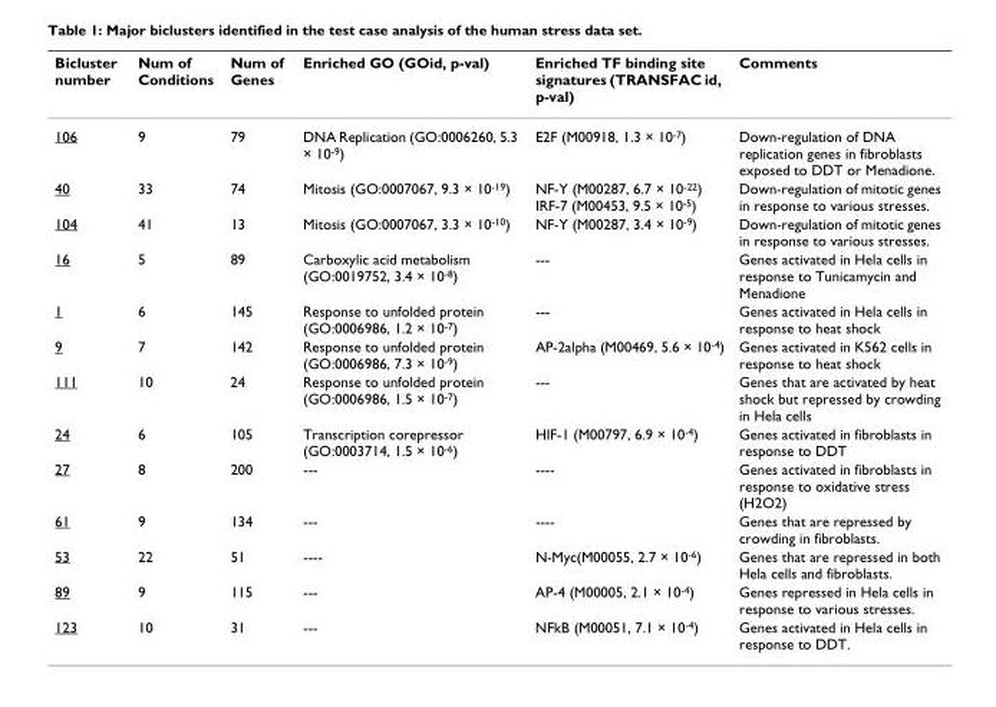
<table><thead><tr><td>Bicluster number</td><td>Num of Conditions</td><td>Num of Genes</td><td>Enriched GO (GOid, p-val)</td><td>Enriched TF binding site signatures (TRANSFAC id, p-val)</td><td>Comments</td></tr></thead><tbody><tr><td>106</td><td>9</td><td>79</td><td>DNA Replication (GO:0006260, 5.3 × 10<sup>-9</sup>)</td><td>E2F (M00918, 1.3 × 10<sup>-7</sup>)</td><td>Down-regulation of DNA replication genes in fibroblasts exposed to DDT or Menadione.</td></tr><tr><td>40</td><td>33</td><td>74</td><td>Mitosis (GO:0007067, 9.3 × 10<sup>-19</sup>)</td><td>NF-Y (M00287, 6.7 × 10<sup>-22</sup>) IRF-7 (M00453, 9.5 × 10<sup>-5</sup>)</td><td>Down-regulation of mitotic genes in response to various stresses.</td></tr><tr><td>104</td><td>41</td><td>13</td><td>Mitosis (GO:0007067, 3.3 × 10<sup>-10</sup>)</td><td>NF-Y (M00287, 3.4 × 10<sup>-9</sup>)</td><td>Down-regulation of mitotic genes in response to various stresses.</td></tr><tr><td>16</td><td>5</td><td>89</td><td>Carboxylic acid metabolism (GO:0019752, 3.4 × 10<sup>-8</sup>)</td><td>---</td><td>Genes activated in Hela cells in response to Tunicamycin and Menadione</td></tr><tr><td>1</td><td>6</td><td>145</td><td>Response to unfolded protein (GO:0006986, 1.2 × 10<sup>-7</sup>)</td><td>---</td><td>Genes activated in Hela cells in response to heat shock</td></tr><tr><td>9</td><td>7</td><td>142</td><td>Response to unfolded protein (GO:0006986, 7.3 × 10<sup>-9</sup>)</td><td>AP-2alpha (M00469, 5.6 × 10<sup>-4</sup>)</td><td>Genes activated in K562 cells in response to heat shock</td></tr><tr><td>111</td><td>10</td><td>24</td><td>Response to unfolded protein (GO:0006986, 1.5 × 10<sup>-7</sup>)</td><td>---</td><td>Genes that are activated by heat shock but repressed by crowding in Hela cells</td></tr><tr><td>24</td><td>6</td><td>105</td><td>Transcription corepressor (GO:0003714, 1.5 × 10<sup>-6</sup>)</td><td>HIF-1 (M00797, 6.9 × 10<sup>-4</sup>)</td><td>Genes activated in fibroblasts in response to DDT</td></tr><tr><td>27</td><td>8</td><td>200</td><td>---</td><td>----</td><td>Genes activated in fibroblasts in response to oxidative stress (H2O2)</td></tr><tr><td>61</td><td>9</td><td>134</td><td>---</td><td>----</td><td>Genes that are repressed by crowding in fibroblasts.</td></tr><tr><td>53</td><td>22</td><td>51</td><td>----</td><td>N-Myc(M00055, 2.7 × 10<sup>-6</sup>)</td><td>Genes that are repressed in both Hela cells and fibroblasts.</td></tr><tr><td>89</td><td>9</td><td>115</td><td>---</td><td>AP-4 (M00005, 2.1 × 10<sup>-4</sup>)</td><td>Genes repressed in Hela cells in response to various stresses.</td></tr><tr><td>123</td><td>10</td><td>31</td><td>---</td><td>NFkB (M00051, 7.1 × 10<sup>-4</sup>)</td><td>Genes activated in Hela cells in response to DDT.</td></tr></tbody></table>